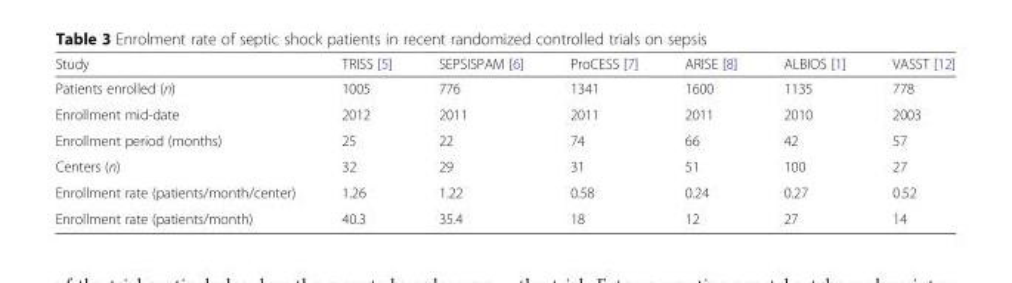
<table><thead><tr><td>Study</td><td>TRISS [5]</td><td>SEPSISPAM [6]</td><td>ProCESS [7]</td><td>ARISE [8]</td><td>ALBIOS [1]</td><td>VASST [12]</td></tr></thead><tbody><tr><td>Patients enrolled (n)</td><td>1005</td><td>776</td><td>1341</td><td>1600</td><td>1135</td><td>778</td></tr><tr><td>Enrollment mid-date</td><td>2012</td><td>2011</td><td>2011</td><td>2011</td><td>2010</td><td>2003</td></tr><tr><td>Enrollment period (months)</td><td>25</td><td>22</td><td>74</td><td>66</td><td>42</td><td>57</td></tr><tr><td>Centers (n)</td><td>32</td><td>29</td><td>31</td><td>51</td><td>100</td><td>27</td></tr><tr><td>Enrollment rate (patients/month/center)</td><td>1.26</td><td>1.22</td><td>0.58</td><td>0.24</td><td>0.27</td><td>0.52</td></tr><tr><td>Enrollment rate (patients/month)</td><td>40.3</td><td>35.4</td><td>18</td><td>12</td><td>27</td><td>14</td></tr></tbody></table>